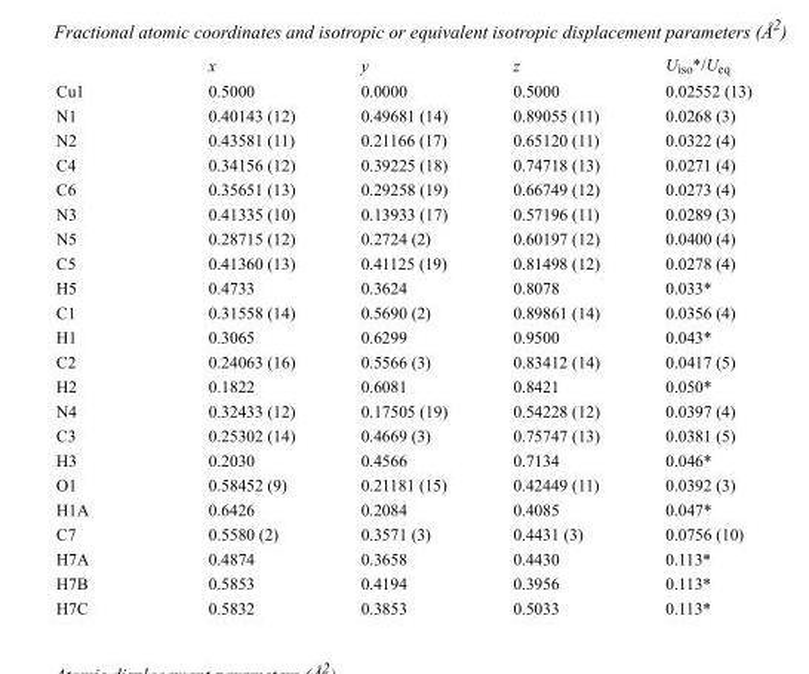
<table><thead><tr><td></td><td>x</td><td>y</td><td>z</td><td>U<sub>iso</sub>*/U<sub>eq</sub></td></tr></thead><tbody><tr><td>Cu1</td><td>0.5000</td><td>0.0000</td><td>0.5000</td><td>0.02552 (13)</td></tr><tr><td>N1</td><td>0.40143 (12)</td><td>0.49681 (14)</td><td>0.89055 (11)</td><td>0.0268 (3)</td></tr><tr><td>N2</td><td>0.43581 (11)</td><td>0.21166 (17)</td><td>0.65120 (11)</td><td>0.0322 (4)</td></tr><tr><td>C4</td><td>0.34156 (12)</td><td>0.39225 (18)</td><td>0.74718 (13)</td><td>0.0271 (4)</td></tr><tr><td>C6</td><td>0.35651 (13)</td><td>0.29258 (19)</td><td>0.66749 (12)</td><td>0.0273 (4)</td></tr><tr><td>N3</td><td>0.41335 (10)</td><td>0.13933 (17)</td><td>0.57196 (11)</td><td>0.0289 (3)</td></tr><tr><td>N5</td><td>0.28715 (12)</td><td>0.2724 (2)</td><td>0.60197 (12)</td><td>0.0400 (4)</td></tr><tr><td>C5</td><td>0.41360 (13)</td><td>0.41125 (19)</td><td>0.81498 (12)</td><td>0.0278 (4)</td></tr><tr><td>H5</td><td>0.4733</td><td>0.3624</td><td>0.8078</td><td>0.033*</td></tr><tr><td>C1</td><td>0.31558 (14)</td><td>0.5690 (2)</td><td>0.89861 (14)</td><td>0.0356 (4)</td></tr><tr><td>H1</td><td>0.3065</td><td>0.6299</td><td>0.9500</td><td>0.043*</td></tr><tr><td>C2</td><td>0.24063 (16)</td><td>0.5566 (3)</td><td>0.83412 (14)</td><td>0.0417 (5)</td></tr><tr><td>H2</td><td>0.1822</td><td>0.6081</td><td>0.8421</td><td>0.050*</td></tr><tr><td>N4</td><td>0.32433 (12)</td><td>0.17505 (19)</td><td>0.54228 (12)</td><td>0.0397 (4)</td></tr><tr><td>C3</td><td>0.25302 (14)</td><td>0.4669 (3)</td><td>0.75747 (13)</td><td>0.0381 (5)</td></tr><tr><td>H3</td><td>0.2030</td><td>0.4566</td><td>0.7134</td><td>0.046*</td></tr><tr><td>O1</td><td>0.58452 (9)</td><td>0.21181 (15)</td><td>0.42449 (11)</td><td>0.0392 (3)</td></tr><tr><td>H1A</td><td>0.6426</td><td>0.2084</td><td>0.4085</td><td>0.047*</td></tr><tr><td>C7</td><td>0.5580 (2)</td><td>0.3571 (3)</td><td>0.4431 (3)</td><td>0.0756 (10)</td></tr><tr><td>H7A</td><td>0.4874</td><td>0.3658</td><td>0.4430</td><td>0.113*</td></tr><tr><td>H7B</td><td>0.5853</td><td>0.4194</td><td>0.3956</td><td>0.113*</td></tr><tr><td>H7C</td><td>0.5832</td><td>0.3853</td><td>0.5033</td><td>0.113*</td></tr></tbody></table>